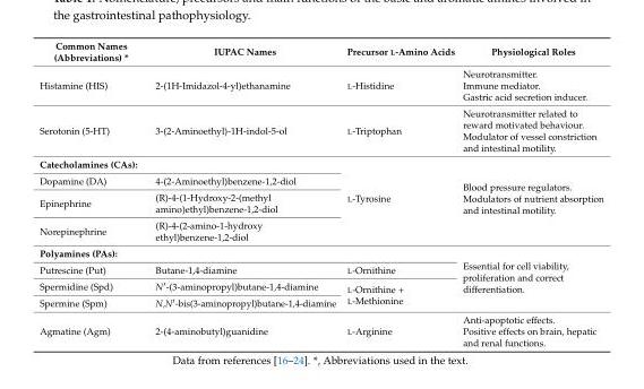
<table><thead><tr><td>Common Names (Abbreviations) *</td><td>IUPAC Names</td><td>Precursor L-Amino Acids</td><td>Physiological Roles</td></tr></thead><tbody><tr><td>Histamine (HIS)</td><td>2-(1H-Imidazol-4-yl)ethanamine</td><td>L-Histidine</td><td>Neurotransmitter. Immune mediator. Gastric acid secretion inducer.</td></tr><tr><td>Serotonin (5-HT)</td><td>3-(2-Aminoethyl)-1H-indol-5-ol</td><td>L-Triptophan</td><td>Neurotransmitter related to reward motivated behaviour. Modulator of vessel constriction and intestinal motility.</td></tr><tr><td colspan="2">Catecholamines (CAs):</td><td rowspan="4">L-Tyrosine</td><td rowspan="4">Blood pressure regulators. Modulators of nutrient absorption and intestinal motility.</td></tr><tr><td>Dopamine (DA)</td><td>4-(2-Aminoethyl)benzene-1,2-diol</td></tr><tr><td>Epinephrine</td><td>(R)-4-(1-Hydroxy-2-(methyl amino)ethyl)benzene-1,2-diol</td></tr><tr><td>Norepinephrine</td><td>(R)-4-(2-amino-1-hydroxy ethyl)benzene-1,2-diol</td></tr><tr><td colspan="3">Polyamines (PAs):</td><td rowspan="4">Essential for cell viability, proliferation and correct differentiation.</td></tr><tr><td>Putrescine (Put)</td><td>Butane-1,4-diamine</td><td>L-Ornithine</td></tr><tr><td>Spermidine (Spd)</td><td>N′-(3-aminopropyl)butane-1,4-diamine</td><td rowspan="2">L-Ornithine + L-Methionine</td></tr><tr><td>Spermine (Spm)</td><td>N,N′-bis(3-aminopropyl)butane-1,4-diamine</td></tr><tr><td>Agmatine (Agm)</td><td>2-(4-aminobutyl)guanidine</td><td>L-Arginine</td><td>Anti-apoptotic effects. Positive effects on brain, hepatic and renal functions.</td></tr></tbody></table>